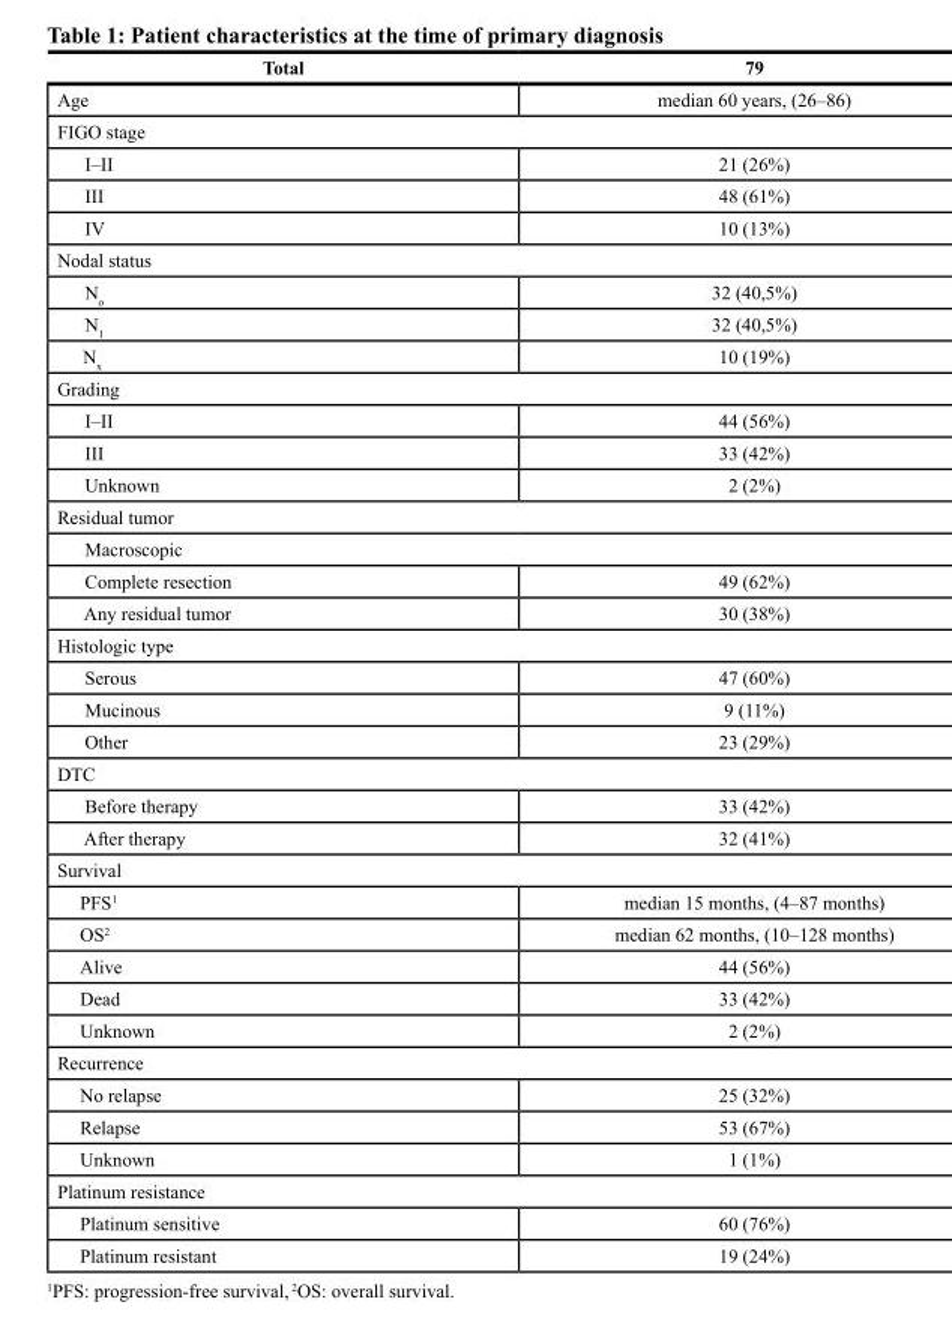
<table><thead><tr><td>Total</td><td>79</td></tr></thead><tbody><tr><td>Age</td><td>median 60 years, (26–86)</td></tr><tr><td colspan="2">FIGO stage</td></tr><tr><td>I–II</td><td>21 (26%)</td></tr><tr><td>III</td><td>48 (61%)</td></tr><tr><td>IV</td><td>10 (13%)</td></tr><tr><td colspan="2">Nodal status</td></tr><tr><td>N<sub>o</sub></td><td>32 (40,5%)</td></tr><tr><td>N<sub>1</sub></td><td>32 (40,5%)</td></tr><tr><td>N<sub>x</sub></td><td>10 (19%)</td></tr><tr><td colspan="2">Grading</td></tr><tr><td>I–II</td><td>44 (56%)</td></tr><tr><td>III</td><td>33 (42%)</td></tr><tr><td>Unknown</td><td>2 (2%)</td></tr><tr><td colspan="2">Residual tumor</td></tr><tr><td colspan="2">Macroscopic</td></tr><tr><td>Complete resection</td><td>49 (62%)</td></tr><tr><td>Any residual tumor</td><td>30 (38%)</td></tr><tr><td colspan="2">Histologic type</td></tr><tr><td>Serous</td><td>47 (60%)</td></tr><tr><td>Mucinous</td><td>9 (11%)</td></tr><tr><td>Other</td><td>23 (29%)</td></tr><tr><td colspan="2">DTC</td></tr><tr><td>Before therapy</td><td>33 (42%)</td></tr><tr><td>After therapy</td><td>32 (41%)</td></tr><tr><td colspan="2">Survival</td></tr><tr><td>PFS<sup>1</sup></td><td>median 15 months, (4–87 months)</td></tr><tr><td>OS<sup>2</sup></td><td>median 62 months, (10–128 months)</td></tr><tr><td>Alive</td><td>44 (56%)</td></tr><tr><td>Dead</td><td>33 (42%)</td></tr><tr><td>Unknown</td><td>2 (2%)</td></tr><tr><td colspan="2">Recurrence</td></tr><tr><td>No relapse</td><td>25 (32%)</td></tr><tr><td>Relapse</td><td>53 (67%)</td></tr><tr><td>Unknown</td><td>1 (1%)</td></tr><tr><td colspan="2">Platinum resistance</td></tr><tr><td>Platinum sensitive</td><td>60 (76%)</td></tr><tr><td>Platinum resistant</td><td>19 (24%)</td></tr></tbody></table>